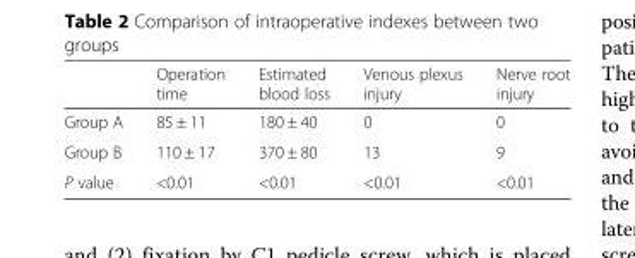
<table><thead><tr><td></td><td>Operation time</td><td>Estimated blood loss</td><td>Venous plexus injury</td><td>Nerve root injury</td></tr></thead><tbody><tr><td>Group A</td><td>85 ± 11</td><td>180 ± 40</td><td>0</td><td>0</td></tr><tr><td>Group B</td><td>110 ± 17</td><td>370 ± 80</td><td>13</td><td>9</td></tr><tr><td>P value</td><td>&lt;0.01</td><td>&lt;0.01</td><td>&lt;0.01</td><td>&lt;0.01</td></tr></tbody></table>